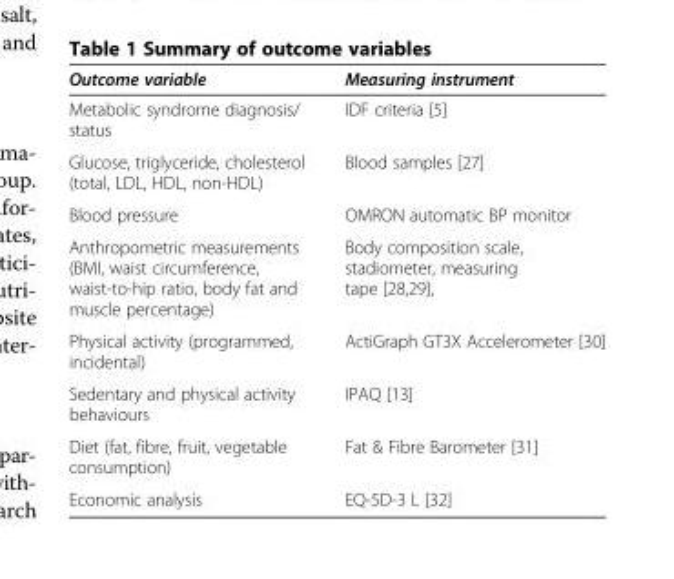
<table><thead><tr><td>Outcome variable</td><td>Measuring instrument</td></tr></thead><tbody><tr><td>Metabolic syndrome diagnosis/ status</td><td>IDF criteria [5]</td></tr><tr><td>Glucose, triglyceride, cholesterol (total, LDL, HDL, non-HDL)</td><td>Blood samples [27]</td></tr><tr><td>Blood pressure</td><td>OMRON automatic BP monitor</td></tr><tr><td>Anthropometric measurements (BMI, waist circumference, waist-to-hip ratio, body fat and muscle percentage)</td><td>Body composition scale, stadiometer, measuring tape [28,29],</td></tr><tr><td>Physical activity (programmed, incidental)</td><td>ActiGraph GT3X Accelerometer [30]</td></tr><tr><td>Sedentary and physical activity behaviours</td><td>IPAQ [13]</td></tr><tr><td>Diet (fat, fibre, fruit, vegetable consumption)</td><td>Fat &amp; Fibre Barometer [31]</td></tr><tr><td>Economic analysis</td><td>EQ-5D-3 L [32]</td></tr></tbody></table>